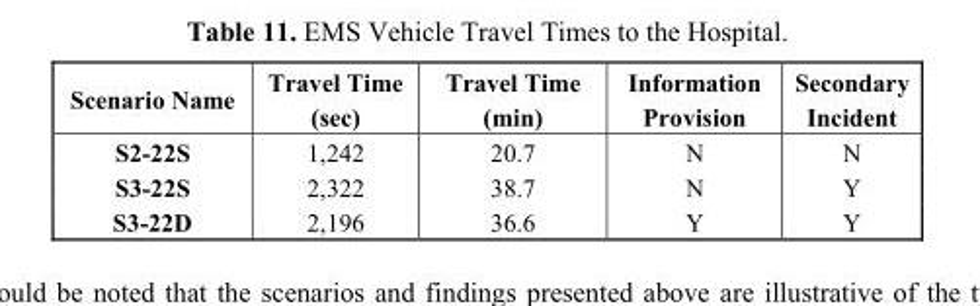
<table><thead><tr><td>Scenario Name</td><td>Travel Time (sec)</td><td>Travel Time (min)</td><td>Information Provision</td><td>Secondary Incident</td></tr></thead><tbody><tr><td>S2-22S</td><td>1,242</td><td>20.7</td><td>N</td><td>N</td></tr><tr><td>S3-22S</td><td>2,322</td><td>38.7</td><td>N</td><td>Y</td></tr><tr><td>S3-22D</td><td>2,196</td><td>36.6</td><td>Y</td><td>Y</td></tr></tbody></table>